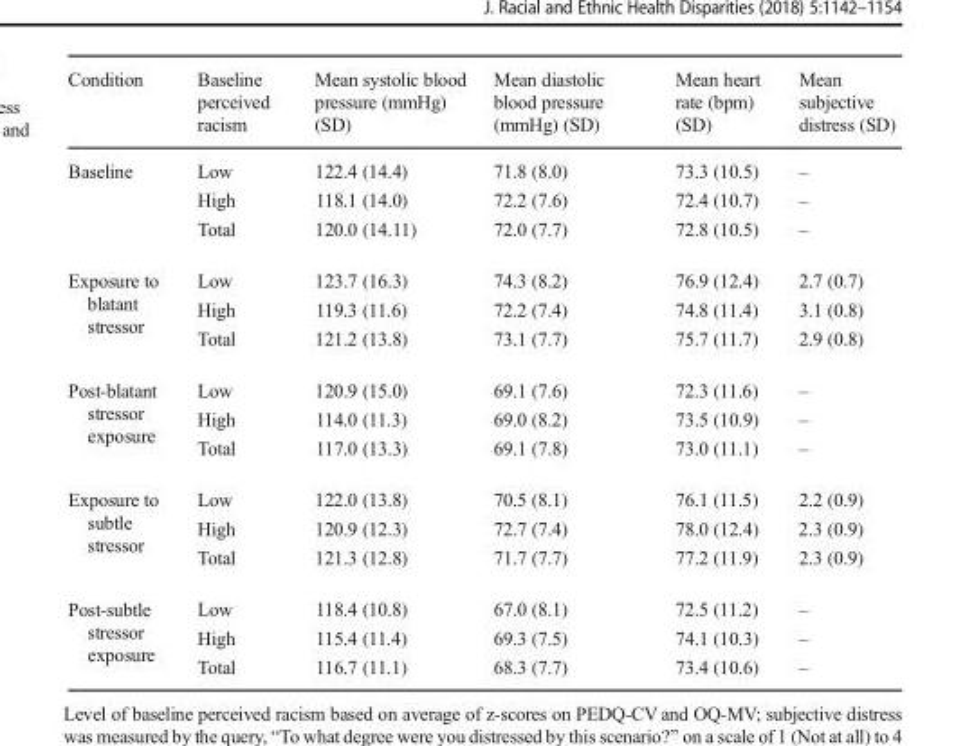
<table><thead><tr><td>Condition</td><td>Baseline perceived racism</td><td>Mean systolic blood pressure (mmHg) (SD)</td><td>Mean diastolic blood pressure (mmHg) (SD)</td><td>Mean heart rate (bpm) (SD)</td><td>Mean subjective distress (SD)</td></tr></thead><tbody><tr><td rowspan="3">Baseline</td><td>Low</td><td>122.4 (14.4)</td><td>71.8 (8.0)</td><td>73.3 (10.5)</td><td>–</td></tr><tr><td>High</td><td>118.1 (14.0)</td><td>72.2 (7.6)</td><td>72.4 (10.7)</td><td>–</td></tr><tr><td>Total</td><td>120.0 (14.11)</td><td>72.0 (7.7)</td><td>72.8 (10.5)</td><td>–</td></tr><tr><td rowspan="3">Exposure to blatant stressor</td><td>Low</td><td>123.7 (16.3)</td><td>74.3 (8.2)</td><td>76.9 (12.4)</td><td>2.7 (0.7)</td></tr><tr><td>High</td><td>119.3 (11.6)</td><td>72.2 (7.4)</td><td>74.8 (11.4)</td><td>3.1 (0.8)</td></tr><tr><td>Total</td><td>121.2 (13.8)</td><td>73.1 (7.7)</td><td>75.7 (11.7)</td><td>2.9 (0.8)</td></tr><tr><td rowspan="3">Post-blatant stressor exposure</td><td>Low</td><td>120.9 (15.0)</td><td>69.1 (7.6)</td><td>72.3 (11.6)</td><td>–</td></tr><tr><td>High</td><td>114.0 (11.3)</td><td>69.0 (8.2)</td><td>73.5 (10.9)</td><td>–</td></tr><tr><td>Total</td><td>117.0 (13.3)</td><td>69.1 (7.8)</td><td>73.0 (11.1)</td><td>–</td></tr><tr><td rowspan="3">Exposure to subtle stressor</td><td>Low</td><td>122.0 (13.8)</td><td>70.5 (8.1)</td><td>76.1 (11.5)</td><td>2.2 (0.9)</td></tr><tr><td>High</td><td>120.9 (12.3)</td><td>72.7 (7.4)</td><td>78.0 (12.4)</td><td>2.3 (0.9)</td></tr><tr><td>Total</td><td>121.3 (12.8)</td><td>71.7 (7.7)</td><td>77.2 (11.9)</td><td>2.3 (0.9)</td></tr><tr><td rowspan="3">Post-subtle stressor exposure</td><td>Low</td><td>118.4 (10.8)</td><td>67.0 (8.1)</td><td>72.5 (11.2)</td><td>–</td></tr><tr><td>High</td><td>115.4 (11.4)</td><td>69.3 (7.5)</td><td>74.1 (10.3)</td><td>–</td></tr><tr><td>Total</td><td>116.7 (11.1)</td><td>68.3 (7.7)</td><td>73.4 (10.6)</td><td>–</td></tr></tbody></table>